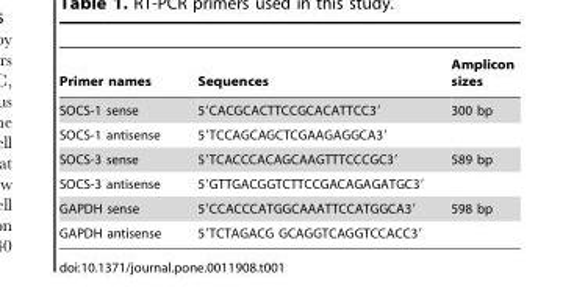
<table><thead><tr><td>Primer names</td><td>Sequences</td><td>Amplicon sizes</td></tr></thead><tbody><tr><td>SOCS-1 sense</td><td>5′CACGCACTTCCGCACATTCC3′</td><td>300 bp</td></tr><tr><td>SOCS-1 antisense</td><td>5′TCCAGCAGCTCGAAGAGGCA3′</td><td></td></tr><tr><td>SOCS-3 sense</td><td>5′TCACCCACAGCAAGTTTCCCGC3′</td><td>589 bp</td></tr><tr><td>SOCS-3 antisense</td><td>5′GTTGACGGTCTTCCGACAGAGATGC3′</td><td></td></tr><tr><td>GAPDH sense</td><td>5′CCACCCATGGCAAATTCCATGGCA3′</td><td>598 bp</td></tr><tr><td>GAPDH antisense</td><td>5′TCTAGACG GCAGGTCAGGTCCACC3′</td><td></td></tr></tbody></table>